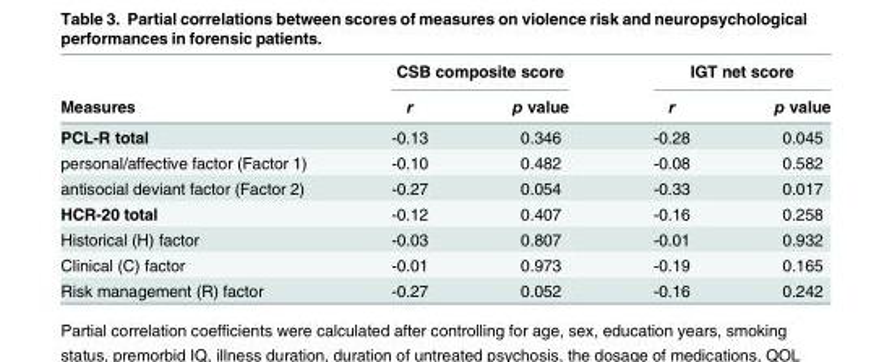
<table><thead><tr><td rowspan="2">Measures</td><td colspan="2">CSB composite score</td><td colspan="2">IGT net score</td></tr><tr><td>r</td><td>p value</td><td>r</td><td>p value</td></tr></thead><tbody><tr><td>PCL-R total</td><td>-0.13</td><td>0.346</td><td>-0.28</td><td>0.045</td></tr><tr><td>personal/affective factor (Factor 1)</td><td>-0.10</td><td>0.482</td><td>-0.08</td><td>0.582</td></tr><tr><td>antisocial deviant factor (Factor 2)</td><td>-0.27</td><td>0.054</td><td>-0.33</td><td>0.017</td></tr><tr><td>HCR-20 total</td><td>-0.12</td><td>0.407</td><td>-0.16</td><td>0.258</td></tr><tr><td>Historical (H) factor</td><td>-0.03</td><td>0.807</td><td>-0.01</td><td>0.932</td></tr><tr><td>Clinical (C) factor</td><td>-0.01</td><td>0.973</td><td>-0.19</td><td>0.165</td></tr><tr><td>Risk management (R) factor</td><td>-0.27</td><td>0.052</td><td>-0.16</td><td>0.242</td></tr></tbody></table>